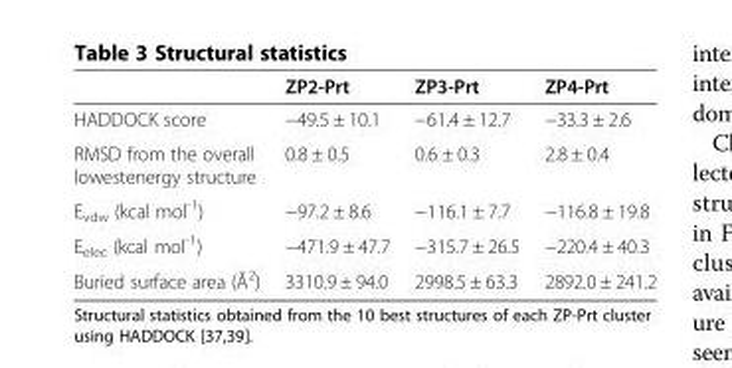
<table><thead><tr><td></td><td>ZP2-Prt</td><td>ZP3-Prt</td><td>ZP4-Prt</td></tr></thead><tbody><tr><td>HADDOCK score</td><td>−49.5 ± 10.1</td><td>−61.4 ± 12.7</td><td>−33.3 ± 2.6</td></tr><tr><td>RMSD from the overall lowestenergy structure</td><td>0.8 ± 0.5</td><td>0.6 ± 0.3</td><td>2.8 ± 0.4</td></tr><tr><td>E<sub>vdw</sub> (kcal mol<sup>-1</sup>)</td><td>−97.2 ± 8.6</td><td>−116.1 ± 7.7</td><td>−116.8 ± 19.8</td></tr><tr><td>E<sub>elec</sub> (kcal mol<sup>-1</sup>)</td><td>−471.9 ± 47.7</td><td>−315.7 ± 26.5</td><td>−220.4 ± 40.3</td></tr><tr><td>Buried surface area (Å<sup>2</sup>)</td><td>3310.9 ± 94.0</td><td>2998.5 ± 63.3</td><td>2892.0 ± 241.2</td></tr></tbody></table>